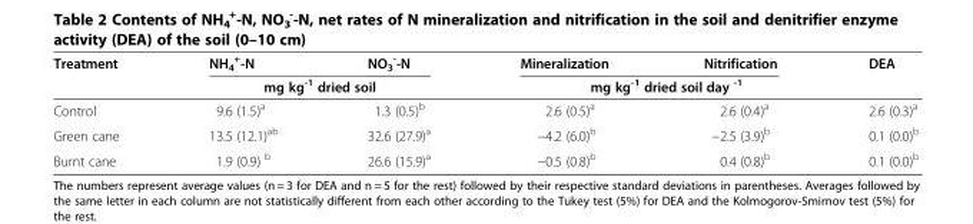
<table><thead><tr><td rowspan="2">Treatment</td><td>NH<sub>4</sub> <sup>+</sup>-N</td><td>NO<sub>3</sub> <sup>-</sup>-N</td><td>Mineralization</td><td>Nitrification</td><td rowspan="2">DEA</td></tr><tr><td colspan="2">mg kg<sup>-1</sup> dried soil</td><td colspan="2">mg kg<sup>-1</sup> dried soil day <sup>-1</sup></td></tr></thead><tbody><tr><td>Control</td><td>9.6 (1.5)<sup>a</sup></td><td>1.3 (0.5)<sup>b</sup></td><td>2.6 (0.5)<sup>a</sup></td><td>2.6 (0.4)<sup>a</sup></td><td>2.6 (0.3)<sup>a</sup></td></tr><tr><td>Green cane</td><td>13.5 (12.1)<sup>ab</sup></td><td>32.6 (27.9)<sup>a</sup></td><td>−4.2 (6.0)<sup>b</sup></td><td>−2.5 (3.9)<sup>b</sup></td><td>0.1 (0.0)<sup>b</sup></td></tr><tr><td>Burnt cane</td><td>1.9 (0.9) <sup>b</sup></td><td>26.6 (15.9)<sup>a</sup></td><td>−0.5 (0.8)<sup>b</sup></td><td>0.4 (0.8)<sup>b</sup></td><td>0.1 (0.0)<sup>b</sup></td></tr></tbody></table>